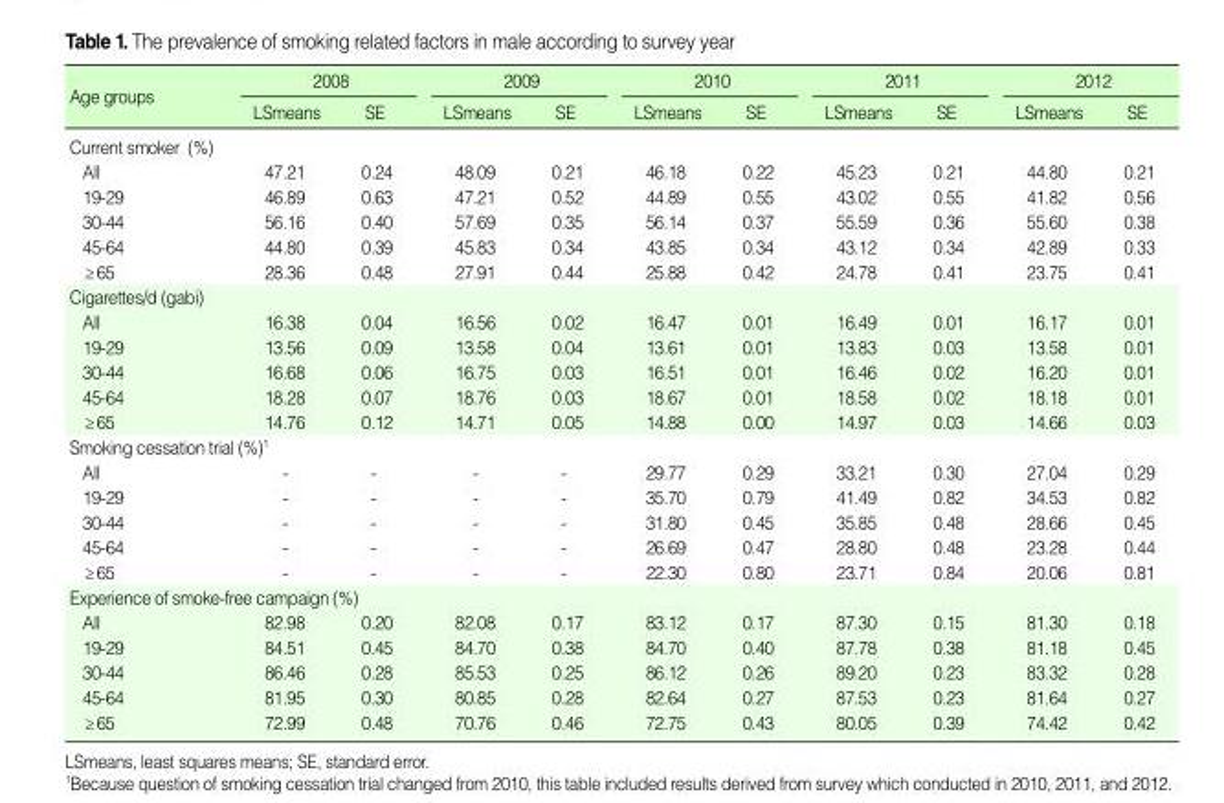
<table><thead><tr><td rowspan="2">Age groups</td><td colspan="2">2008</td><td colspan="2">2009</td><td colspan="2">2010</td><td colspan="2">2011</td><td colspan="2">2012</td></tr><tr><td>LSmeans</td><td>SE</td><td>LSmeans</td><td>SE</td><td>LSmeans</td><td>SE</td><td>LSmeans</td><td>SE</td><td>LSmeans</td><td>SE</td></tr></thead><tbody><tr><td colspan="11">Current smoker (%)</td></tr><tr><td>All</td><td>47.21</td><td>0.24</td><td>48.09</td><td>0.21</td><td>46.18</td><td>0.22</td><td>45.23</td><td>0.21</td><td>44.80</td><td>0.21</td></tr><tr><td>19-29</td><td>46.89</td><td>0.63</td><td>47.21</td><td>0.52</td><td>44.89</td><td>0.55</td><td>43.02</td><td>0.55</td><td>41.82</td><td>0.56</td></tr><tr><td>30-44</td><td>56.16</td><td>0.40</td><td>57.69</td><td>0.35</td><td>56.14</td><td>0.37</td><td>55.59</td><td>0.36</td><td>55.60</td><td>0.38</td></tr><tr><td>45-64</td><td>44.80</td><td>0.39</td><td>45.83</td><td>0.34</td><td>43.85</td><td>0.34</td><td>43.12</td><td>0.34</td><td>42.89</td><td>0.33</td></tr><tr><td>≥65</td><td>28.36</td><td>0.48</td><td>27.91</td><td>0.44</td><td>25.88</td><td>0.42</td><td>24.78</td><td>0.41</td><td>23.75</td><td>0.41</td></tr><tr><td colspan="11">Cigarettes/d (gabi)</td></tr><tr><td>All</td><td>16.38</td><td>0.04</td><td>16.56</td><td>0.02</td><td>16.47</td><td>0.01</td><td>16.49</td><td>0.01</td><td>16.17</td><td>0.01</td></tr><tr><td>19-29</td><td>13.56</td><td>0.09</td><td>13.58</td><td>0.04</td><td>13.61</td><td>0.01</td><td>13.83</td><td>0.03</td><td>13.58</td><td>0.01</td></tr><tr><td>30-44</td><td>16.68</td><td>0.06</td><td>16.75</td><td>0.03</td><td>16.51</td><td>0.01</td><td>16.46</td><td>0.02</td><td>16.20</td><td>0.01</td></tr><tr><td>45-64</td><td>18.28</td><td>0.07</td><td>18.76</td><td>0.03</td><td>18.67</td><td>0.01</td><td>18.58</td><td>0.02</td><td>18.18</td><td>0.01</td></tr><tr><td>≥65</td><td>14.76</td><td>0.12</td><td>14.71</td><td>0.05</td><td>14.88</td><td>0.00</td><td>14.97</td><td>0.03</td><td>14.66</td><td>0.03</td></tr><tr><td colspan="11">Smoking cessation trial (%)<sup>1</sup></td></tr><tr><td>All</td><td>-</td><td>-</td><td>-</td><td>-</td><td>29.77</td><td>0.29</td><td>33.21</td><td>0.30</td><td>27.04</td><td>0.29</td></tr><tr><td>19-29</td><td>-</td><td>-</td><td>-</td><td>-</td><td>35.70</td><td>0.79</td><td>41.49</td><td>0.82</td><td>34.53</td><td>0.82</td></tr><tr><td>30-44</td><td>-</td><td>-</td><td>-</td><td>-</td><td>31.80</td><td>0.45</td><td>35.85</td><td>0.48</td><td>28.66</td><td>0.45</td></tr><tr><td>45-64</td><td>-</td><td>-</td><td>-</td><td>-</td><td>26.69</td><td>0.47</td><td>28.80</td><td>0.48</td><td>23.28</td><td>0.44</td></tr><tr><td>≥65</td><td>-</td><td>-</td><td>-</td><td>-</td><td>22.30</td><td>0.80</td><td>23.71</td><td>0.84</td><td>20.06</td><td>0.81</td></tr><tr><td colspan="11">Experience of smoke-free campaign (%)</td></tr><tr><td>All</td><td>82.98</td><td>0.20</td><td>82.08</td><td>0.17</td><td>83.12</td><td>0.17</td><td>87.30</td><td>0.15</td><td>81.30</td><td>0.18</td></tr><tr><td>19-29</td><td>84.51</td><td>0.45</td><td>84.70</td><td>0.38</td><td>84.70</td><td>0.40</td><td>87.78</td><td>0.38</td><td>81.18</td><td>0.45</td></tr><tr><td>30-44</td><td>86.46</td><td>0.28</td><td>85.53</td><td>0.25</td><td>86.12</td><td>0.26</td><td>89.20</td><td>0.23</td><td>83.32</td><td>0.28</td></tr><tr><td>45-64</td><td>81.95</td><td>0.30</td><td>80.85</td><td>0.28</td><td>82.64</td><td>0.27</td><td>87.53</td><td>0.23</td><td>81.64</td><td>0.27</td></tr><tr><td>≥65</td><td>72.99</td><td>0.48</td><td>70.76</td><td>0.46</td><td>72.75</td><td>0.43</td><td>80.05</td><td>0.39</td><td>74.42</td><td>0.42</td></tr></tbody></table>